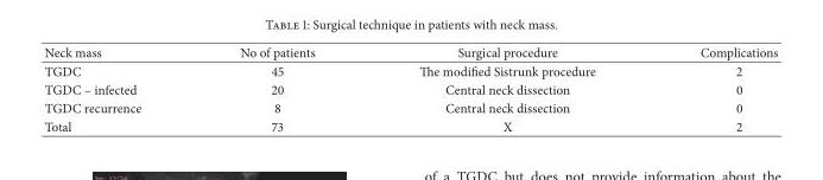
<table><thead><tr><td>Neck mass</td><td>No of patients</td><td>Surgical procedure</td><td>Complications</td></tr></thead><tbody><tr><td>TGDC</td><td>45</td><td>The modified Sistrunk procedure</td><td>2</td></tr><tr><td>TGDC – infected</td><td>20</td><td>Central neck dissection</td><td>0</td></tr><tr><td>TGDC recurrence</td><td>8</td><td>Central neck dissection</td><td>0</td></tr><tr><td>Total</td><td>73</td><td>X</td><td>2</td></tr></tbody></table>